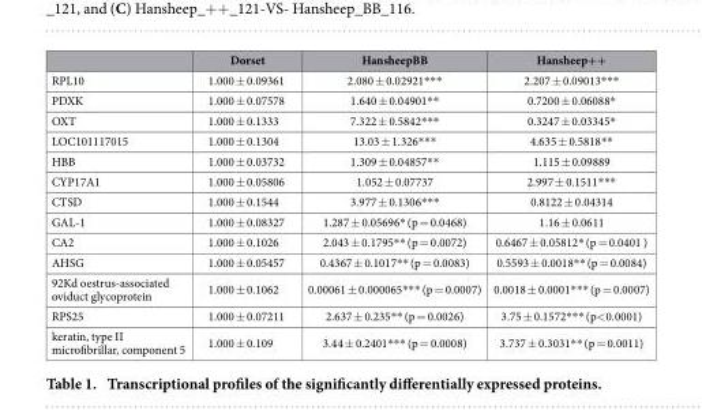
<table><thead><tr><td></td><td>Dorset</td><td>HansheepBB</td><td>Hansheep++</td></tr></thead><tbody><tr><td>RPL10</td><td>1.000 ± 0.09361</td><td>2.080 ± 0.02921* * *</td><td>2.207 ± 0.09013* * *</td></tr><tr><td>PDXK</td><td>1.000 ± 0.07578</td><td>1.640 ± 0.04901* *</td><td>0.7200 ± 0.06088*</td></tr><tr><td>OXT</td><td>1.000 ± 0.1333</td><td>7.322 ± 0.5842* * *</td><td>0.3247 ± 0.03345*</td></tr><tr><td>LOC101117015</td><td>1.000 ± 0.1304</td><td>13.03 ± 1.326* * *</td><td>4.635 ± 0.5818* *</td></tr><tr><td>HBB</td><td>1.000 ± 0.03732</td><td>1.309 ± 0.04857* *</td><td>1.115 ± 0.09889</td></tr><tr><td>CYP17A1</td><td>1.000 ± 0.05806</td><td>1.052 ± 0.07737</td><td>2.997 ± 0.1511* * *</td></tr><tr><td>CTSD</td><td>1.000 ± 0.1544</td><td>3.977 ± 0.1306* * *</td><td>0.8122 ± 0.04314</td></tr><tr><td>GAL-1</td><td>1.000 ± 0.08327</td><td>1.287 ± 0.05696* (p = 0.0468)</td><td>1.16 ± 0.0611</td></tr><tr><td>CA2</td><td>1.000 ± 0.1026</td><td>2.043 ± 0.1795* * (p = 0.0072)</td><td>0.6467 ± 0.05812* (p = 0.0401 )</td></tr><tr><td>AHSG</td><td>1.000 ± 0.05457</td><td>0.4367 ± 0.1017* * (p = 0.0083)</td><td>0.5593 ± 0.0018* * (p = 0.0084)</td></tr><tr><td>92Kd oestrus-associated oviduct glycoprotein</td><td>1.000 ± 0.1062</td><td>0.00061 ± 0.000065* * * (p = 0.0007)</td><td>0.0018 ± 0.0001* * * (p = 0.0007)</td></tr><tr><td>RPS25</td><td>1.000 ± 0.07211</td><td>2.637 ± 0.235* * (p = 0.0026)</td><td>3.75 ± 0.1572* * * (p&lt; 0.0001)</td></tr><tr><td>keratin, type II microfibrillar, component 5</td><td>1.000 ± 0.109</td><td>3.44 ± 0.2401* * * (p = 0.0008)</td><td>3.737 ± 0.3031* * (p = 0.0011)</td></tr></tbody></table>